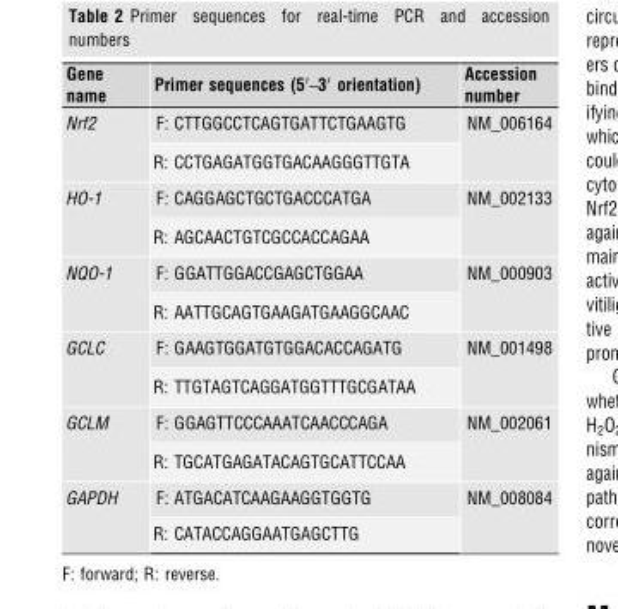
<table><thead><tr><td>Gene name</td><td>Primer sequences (5′–3′ orientation)</td><td>Accession number</td></tr></thead><tbody><tr><td rowspan="2">Nrf2</td><td>F: CTTGGCCTCAGTGATTCTGAAGTG</td><td rowspan="2">NM_006164</td></tr><tr><td>R: CCTGAGATGGTGACAAGGGTTGTA</td></tr><tr><td rowspan="2">HO-1</td><td>F: CAGGAGCTGCTGACCCATGA</td><td rowspan="2">NM_002133</td></tr><tr><td>R: AGCAACTGTCGCCACCAGAA</td></tr><tr><td rowspan="2">NQO-1</td><td>F: GGATTGGACCGAGCTGGAA</td><td rowspan="2">NM_000903</td></tr><tr><td>R: AATTGCAGTGAAGATGAAGGCAAC</td></tr><tr><td rowspan="2">GCLC</td><td>F: GAAGTGGATGTGGACACCAGATG</td><td rowspan="2">NM_001498</td></tr><tr><td>R: TTGTAGTCAGGATGGTTTGCGATAA</td></tr><tr><td rowspan="2">GCLM</td><td>F: GGAGTTCCCAAATCAACCCAGA</td><td rowspan="2">NM_002061</td></tr><tr><td>R: TGCATGAGATACAGTGCATTCCAA</td></tr><tr><td rowspan="2">GAPDH</td><td>F: ATGACATCAAGAAGGTGGTG</td><td rowspan="2">NM_008084</td></tr><tr><td>R: CATACCAGGAATGAGCTTG</td></tr></tbody></table>